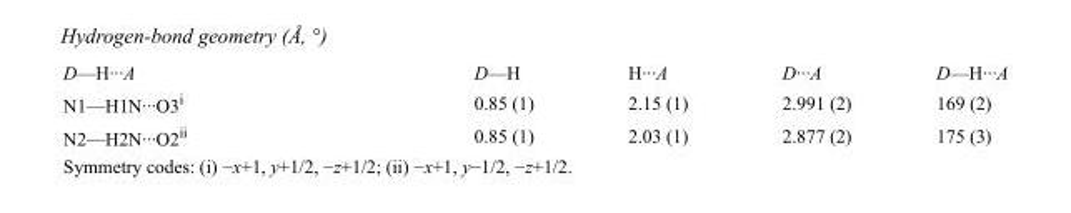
<table><tbody><tr><td>D—H···A</td><td>D—H</td><td>H···A</td><td>D···A</td><td>D—H···A</td></tr><tr><td>N1—H1N···O3<sup>i</sup></td><td>0.85 (1)</td><td>2.15 (1)</td><td>2.991 (2)</td><td>169 (2)</td></tr><tr><td>N2—H2N···O2<sup>ii</sup></td><td>0.85 (1)</td><td>2.03 (1)</td><td>2.877 (2)</td><td>175 (3)</td></tr></tbody></table>